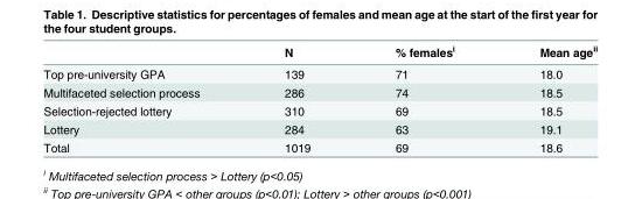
<table><thead><tr><td></td><td>N</td><td>% females<sup>i</sup></td><td>Mean age<sup>ii</sup></td></tr></thead><tbody><tr><td>Top pre-university GPA</td><td>139</td><td>71</td><td>18.0</td></tr><tr><td>Multifaceted selection process</td><td>286</td><td>74</td><td>18.5</td></tr><tr><td>Selection-rejected lottery</td><td>310</td><td>69</td><td>18.5</td></tr><tr><td>Lottery</td><td>284</td><td>63</td><td>19.1</td></tr><tr><td>Total</td><td>1019</td><td>69</td><td>18.6</td></tr></tbody></table>